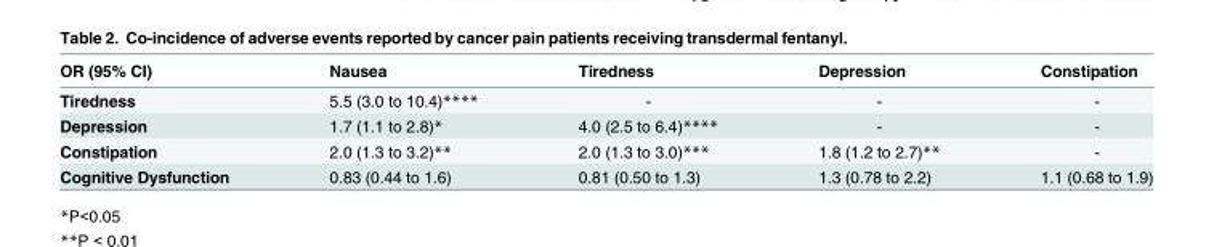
<table><thead><tr><td>OR (95% CI)</td><td>Nausea</td><td>Tiredness</td><td>Depression</td><td>Constipation</td></tr></thead><tbody><tr><td>Tiredness</td><td>5.5 (3.0 to 10.4)****</td><td>-</td><td>-</td><td>-</td></tr><tr><td>Depression</td><td>1.7 (1.1 to 2.8)*</td><td>4.0 (2.5 to 6.4)****</td><td>-</td><td>-</td></tr><tr><td>Constipation</td><td>2.0 (1.3 to 3.2)**</td><td>2.0 (1.3 to 3.0)***</td><td>1.8 (1.2 to 2.7)**</td><td>-</td></tr><tr><td>Cognitive Dysfunction</td><td>0.83 (0.44 to 1.6)</td><td>0.81 (0.50 to 1.3)</td><td>1.3 (0.78 to 2.2)</td><td>1.1 (0.68 to 1.9)</td></tr></tbody></table>